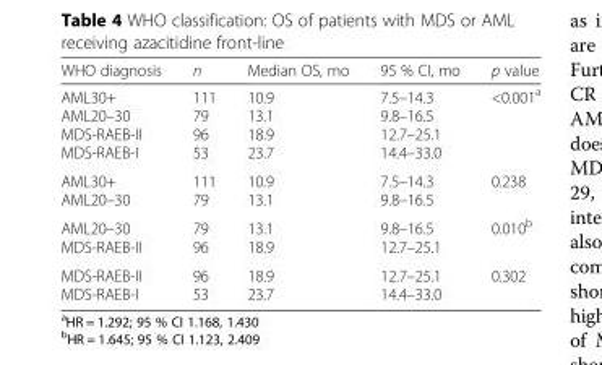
<table><thead><tr><td>WHO diagnosis</td><td>n</td><td>Median OS, mo</td><td>95 % CI, mo</td><td>p value</td></tr></thead><tbody><tr><td>AML30+ AML20–30 MDS-RAEB-II MDS-RAEB-I</td><td>111 79 96 53</td><td>10.9 13.1 18.9 23.7</td><td>7.5–14.3 9.8–16.5 12.7–25.1 14.4–33.0</td><td>&lt;0.001<sup>a</sup></td></tr><tr><td>AML30+ AML20–30</td><td>111 79</td><td>10.9 13.1</td><td>7.5–14.3 9.8–16.5</td><td>0.238</td></tr><tr><td>AML20–30 MDS-RAEB-II</td><td>79 96</td><td>13.1 18.9</td><td>9.8–16.5 12.7–25.1</td><td>0.010<sup>b</sup></td></tr><tr><td>MDS-RAEB-II MDS-RAEB-I</td><td>96 53</td><td>18.9 23.7</td><td>12.7–25.1 14.4–33.0</td><td>0.302</td></tr></tbody></table>